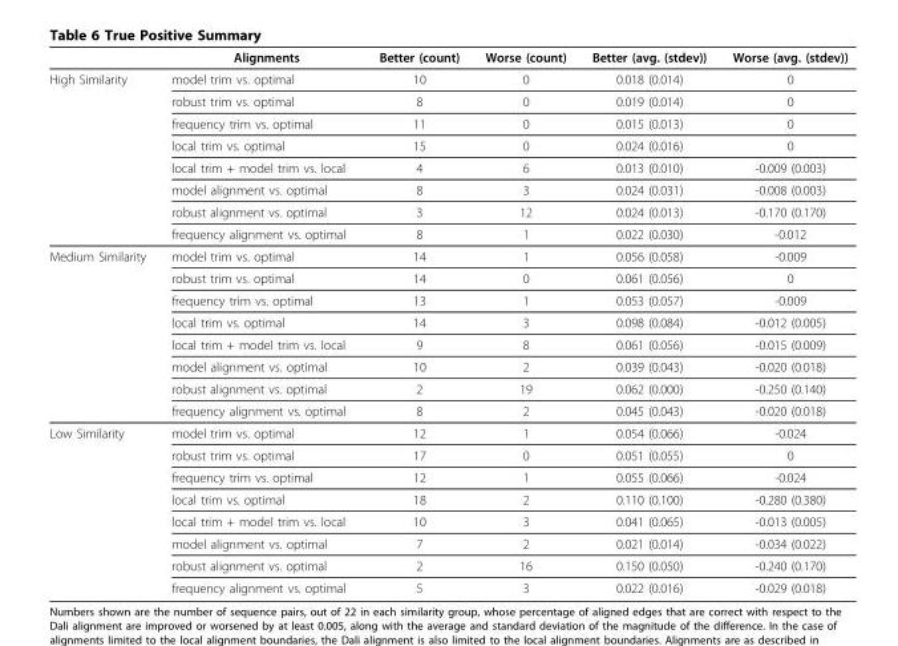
<table><thead><tr><td></td><td>Alignments</td><td>Better (count)</td><td>Worse (count)</td><td>Better (avg. (stdev))</td><td>Worse (avg. (stdev))</td></tr></thead><tbody><tr><td rowspan="8">High Similarity</td><td>model trim vs. optimal</td><td>10</td><td>0</td><td>0.018 (0.014)</td><td>0</td></tr><tr><td>robust trim vs. optimal</td><td>8</td><td>0</td><td>0.019 (0.014)</td><td>0</td></tr><tr><td>frequency trim vs. optimal</td><td>11</td><td>0</td><td>0.015 (0.013)</td><td>0</td></tr><tr><td>local trim vs. optimal</td><td>15</td><td>0</td><td>0.024 (0.016)</td><td>0</td></tr><tr><td>local trim + model trim vs. local</td><td>4</td><td>6</td><td>0.013 (0.010)</td><td>-0.009 (0.003)</td></tr><tr><td>model alignment vs. optimal</td><td>8</td><td>3</td><td>0.024 (0.031)</td><td>-0.008 (0.003)</td></tr><tr><td>robust alignment vs. optimal</td><td>3</td><td>12</td><td>0.024 (0.013)</td><td>-0.170 (0.170)</td></tr><tr><td>frequency alignment vs. optimal</td><td>8</td><td>1</td><td>0.022 (0.030)</td><td>-0.012</td></tr><tr><td rowspan="8">Medium Similarity</td><td>model trim vs. optimal</td><td>14</td><td>1</td><td>0.056 (0.058)</td><td>-0.009</td></tr><tr><td>robust trim vs. optimal</td><td>14</td><td>0</td><td>0.061 (0.056)</td><td>0</td></tr><tr><td>frequency trim vs. optimal</td><td>13</td><td>1</td><td>0.053 (0.057)</td><td>-0.009</td></tr><tr><td>local trim vs. optimal</td><td>14</td><td>3</td><td>0.098 (0.084)</td><td>-0.012 (0.005)</td></tr><tr><td>local trim + model trim vs. local</td><td>9</td><td>8</td><td>0.061 (0.056)</td><td>-0.015 (0.009)</td></tr><tr><td>model alignment vs. optimal</td><td>10</td><td>2</td><td>0.039 (0.043)</td><td>-0.020 (0.018)</td></tr><tr><td>robust alignment vs. optimal</td><td>2</td><td>19</td><td>0.062 (0.000)</td><td>-0.250 (0.140)</td></tr><tr><td>frequency alignment vs. optimal</td><td>8</td><td>2</td><td>0.045 (0.043)</td><td>-0.020 (0.018)</td></tr><tr><td rowspan="8">Low Similarity</td><td>model trim vs. optimal</td><td>12</td><td>1</td><td>0.054 (0.066)</td><td>-0.024</td></tr><tr><td>robust trim vs. optimal</td><td>17</td><td>0</td><td>0.051 (0.055)</td><td>0</td></tr><tr><td>frequency trim vs. optimal</td><td>12</td><td>1</td><td>0.055 (0.066)</td><td>-0.024</td></tr><tr><td>local trim vs. optimal</td><td>18</td><td>2</td><td>0.110 (0.100)</td><td>-0.280 (0.380)</td></tr><tr><td>local trim + model trim vs. local</td><td>10</td><td>3</td><td>0.041 (0.065)</td><td>-0.013 (0.005)</td></tr><tr><td>model alignment vs. optimal</td><td>7</td><td>2</td><td>0.021 (0.014)</td><td>-0.034 (0.022)</td></tr><tr><td>robust alignment vs. optimal</td><td>2</td><td>16</td><td>0.150 (0.050)</td><td>-0.240 (0.170)</td></tr><tr><td>frequency alignment vs. optimal</td><td>5</td><td>3</td><td>0.022 (0.016)</td><td>-0.029 (0.018)</td></tr></tbody></table>